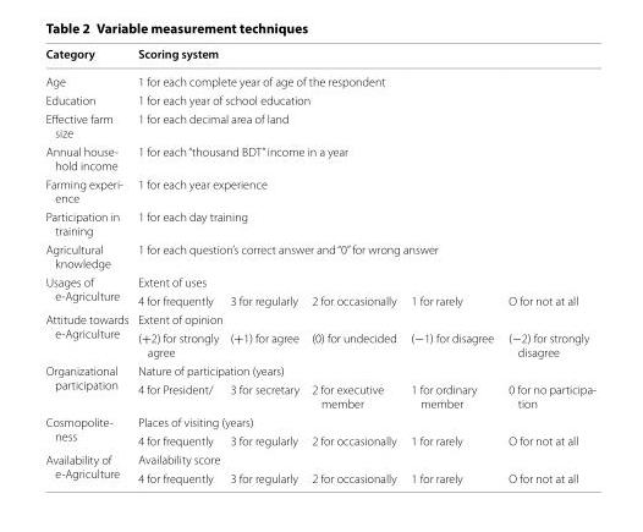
<table><thead><tr><td>Category</td><td colspan="5">Scoring system</td></tr></thead><tbody><tr><td>Age</td><td colspan="5">1 for each complete year of age of the respondent</td></tr><tr><td>Education</td><td colspan="5">1 for each year of school education</td></tr><tr><td>Effective farm size</td><td colspan="5">1 for each decimal area of land</td></tr><tr><td>Annual house- hold income</td><td colspan="5">1 for each “thousand BDT” income in a year</td></tr><tr><td>Farming experi- ence</td><td colspan="5">1 for each year experience</td></tr><tr><td>Participation in training</td><td colspan="5">1 for each day training</td></tr><tr><td>Agricultural knowledge</td><td colspan="5">1 for each question’s correct answer and “0” for wrong answer</td></tr><tr><td rowspan="2">Usages of e-Agriculture</td><td colspan="5">Extent of uses</td></tr><tr><td>4 for frequently</td><td>3 for regularly</td><td>2 for occasionally</td><td>1 for rarely</td><td>O for not at all</td></tr><tr><td rowspan="2">Attitude towards e-Agriculture</td><td colspan="5">Extent of opinion</td></tr><tr><td>(+2) for strongly agree</td><td>(+1) for agree</td><td>(0) for undecided</td><td>(−1) for disagree</td><td>(−2) for strongly disagree</td></tr><tr><td rowspan="2">Organizational participation</td><td colspan="5">Nature of participation (years)</td></tr><tr><td>4 for President/</td><td>3 for secretary</td><td>2 for executive member</td><td>1 for ordinary member</td><td>0 for no participa- tion</td></tr><tr><td rowspan="2">Cosmopolite- ness</td><td colspan="5">Places of visiting (years)</td></tr><tr><td>4 for frequently</td><td>3 for regularly</td><td>2 for occasionally</td><td>1 for rarely</td><td>O for not at all</td></tr><tr><td rowspan="2">Availability of e-Agriculture</td><td colspan="5">Availability score</td></tr><tr><td>4 for frequently</td><td>3 for regularly</td><td>2 for occasionally</td><td>1 for rarely</td><td>O for not at all</td></tr></tbody></table>